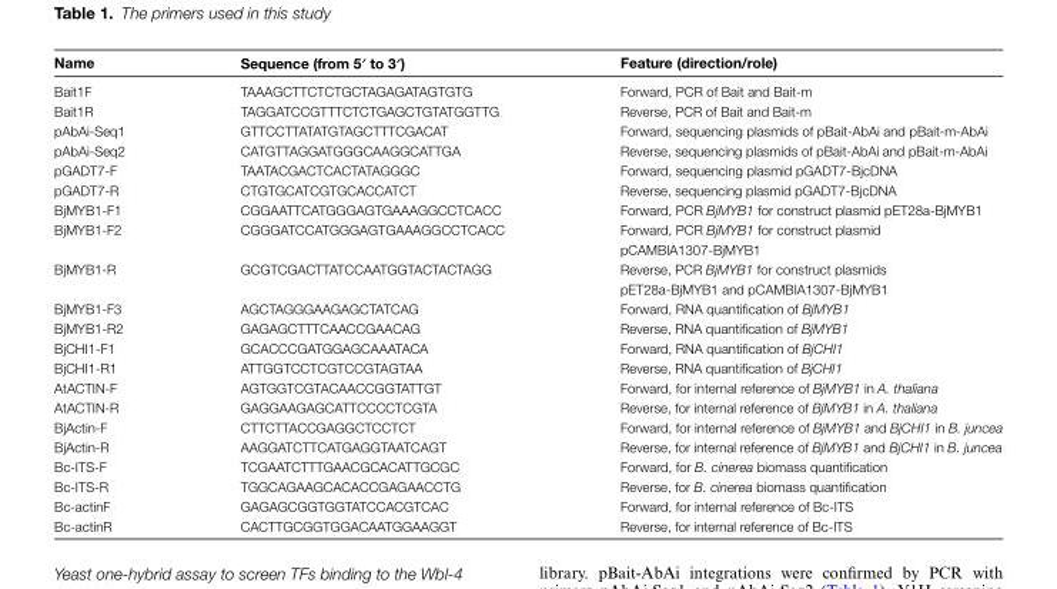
<table><thead><tr><td>Name</td><td>Sequence (from 5′ to 3′)</td><td>Feature (direction/role)</td></tr></thead><tbody><tr><td>Bait1F</td><td>TAAAGCTTCTCTGCTAGAGATAGTGTG</td><td>Forward, PCR of Bait and Bait-m</td></tr><tr><td>Bait1R</td><td>TAGGATCCGTTTCTCTGAGCTGTATGGTTG</td><td>Reverse, PCR of Bait and Bait-m</td></tr><tr><td>pAbAi-Seq1</td><td>GTTCCTTATATGTAGCTTTCGACAT</td><td>Forward, sequencing plasmids of pBait-AbAi and pBait-m-AbAi</td></tr><tr><td>pAbAi-Seq2</td><td>CATGTTAGGATGGGCAAGGCATTGA</td><td>Reverse, sequencing plasmids of pBait-AbAi and pBait-m-AbAi</td></tr><tr><td>pGADT7-F</td><td>TAATACGACTCACTATAGGGC</td><td>Forward, sequencing plasmid pGADT7-BjcDNA</td></tr><tr><td>pGADT7-R</td><td>CTGTGCATCGTGCACCATCT</td><td>Reverse, sequencing plasmid pGADT7-BjcDNA</td></tr><tr><td>BjMYB1-F1</td><td>CGGAATTCATGGGAGTGAAAGGCCTCACC</td><td>Forward, PCR BjMYB1 for construct plasmid pET28a-BjMYB1</td></tr><tr><td rowspan="2">BjMYB1-F2</td><td>CGGGATCCATGGGAGTGAAAGGCCTCACC</td><td>Forward, PCR BjMYB1 for construct plasmid</td></tr><tr><td></td><td>pCAMBIA1307-BjMYB1</td></tr><tr><td rowspan="2">BjMYB1-R</td><td>GCGTCGACTTATCCAATGGTACTACTAGG</td><td>Reverse, PCR BjMYB1 for construct plasmids</td></tr><tr><td></td><td>pET28a-BjMYB1 and pCAMBIA1307-BjMYB1</td></tr><tr><td>BjMYB1-F3</td><td>AGCTAGGGAAGAGCTATCAG</td><td>Forward, RNA quantification of BjMYB1</td></tr><tr><td>BjMYB1-R2</td><td>GAGAGCTTTCAACCGAACAG</td><td>Reverse, RNA quantification of BjMYB1</td></tr><tr><td>BjCHI1-F1</td><td>GCACCCGATGGAGCAAATACA</td><td>Forward, RNA quantification of BjCHI1</td></tr><tr><td>BjCHI1-R1</td><td>ATTGGTCCTCGTCCGTAGTAA</td><td>Reverse, RNA quantification of BjCHI1</td></tr><tr><td>AtACTIN-F</td><td>AGTGGTCGTACAACCGGTATTGT</td><td>Forward, for internal reference of BjMYB1 in A. thaliana</td></tr><tr><td>AtACTIN-R</td><td>GAGGAAGAGCATTCCCCTCGTA</td><td>Reverse, for internal reference of BjMYB1 in A. thaliana</td></tr><tr><td>BjActin-F</td><td>CTTCTTACCGAGGCTCCTCT</td><td>Forward, for internal reference of BjMYB1 and BjCHI1 in B. juncea</td></tr><tr><td>BjActin-R</td><td>AAGGATCTTCATGAGGTAATCAGT</td><td>Reverse, for internal reference of BjMYB1 and BjCHI1 in B. juncea</td></tr><tr><td>Bc-ITS-F</td><td>TCGAATCTTTGAACGCACATTGCGC</td><td>Forward, for B. cinerea biomass quantification</td></tr><tr><td>Bc-ITS-R</td><td>TGGCAGAAGCACACCGAGAACCTG</td><td>Reverse, for B. cinerea biomass quantification</td></tr><tr><td>Bc-actinF</td><td>GAGAGCGGTGGTATCCACGTCAC</td><td>Forward, for internal reference of Bc-ITS</td></tr><tr><td>Bc-actinR</td><td>CACTTGCGGTGGACAATGGAAGGT</td><td>Reverse, for internal reference of Bc-ITS</td></tr></tbody></table>